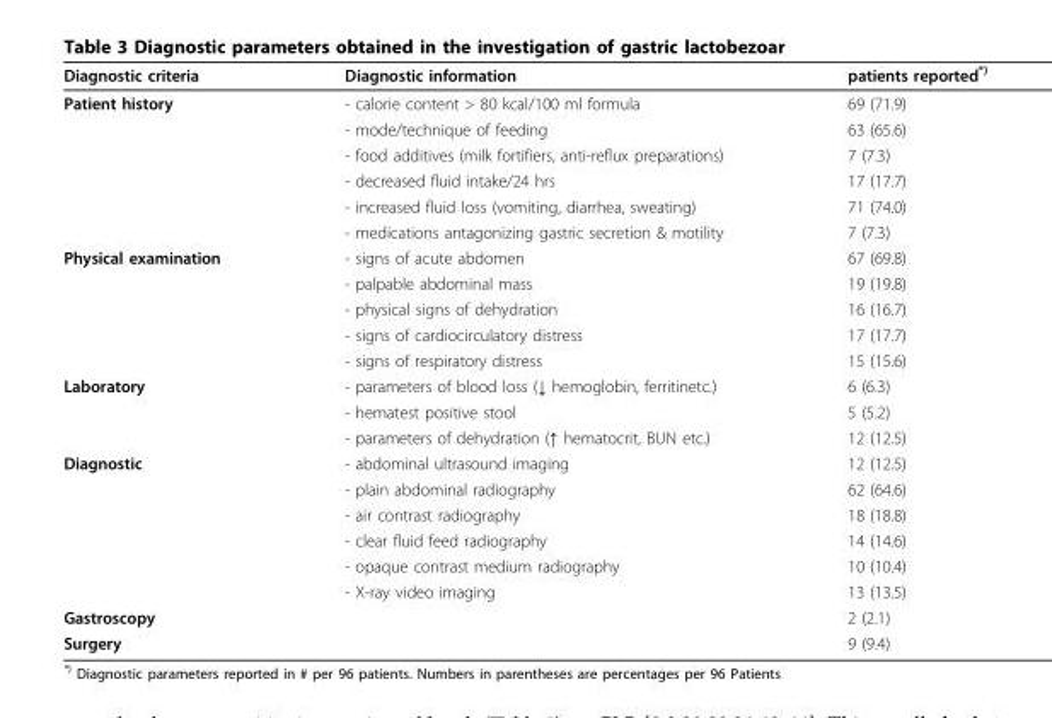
<table><thead><tr><td>Diagnostic criteria</td><td>Diagnostic information</td><td>patients reported<sup>*)</sup></td></tr></thead><tbody><tr><td rowspan="6">Patient history</td><td>- calorie content &gt; 80 kcal/100 ml formula</td><td>69 (71.9)</td></tr><tr><td>- mode/technique of feeding</td><td>63 (65.6)</td></tr><tr><td>- food additives (milk fortifiers, anti-reflux preparations)</td><td>7 (7.3)</td></tr><tr><td>- decreased fluid intake/24 hrs</td><td>17 (17.7)</td></tr><tr><td>- increased fluid loss (vomiting, diarrhea, sweating)</td><td>71 (74.0)</td></tr><tr><td>- medications antagonizing gastric secretion &amp; motility</td><td>7 (7.3)</td></tr><tr><td rowspan="5">Physical examination</td><td>- signs of acute abdomen</td><td>67 (69.8)</td></tr><tr><td>- palpable abdominal mass</td><td>19 (19.8)</td></tr><tr><td>- physical signs of dehydration</td><td>16 (16.7)</td></tr><tr><td>- signs of cardiocirculatory distress</td><td>17 (17.7)</td></tr><tr><td>- signs of respiratory distress</td><td>15 (15.6)</td></tr><tr><td rowspan="3">Laboratory</td><td>- parameters of blood loss (↓ hemoglobin, ferritinetc.)</td><td>6 (6.3)</td></tr><tr><td>- hematest positive stool</td><td>5 (5.2)</td></tr><tr><td>- parameters of dehydration (↑ hematocrit, BUN etc.)</td><td>12 (12.5)</td></tr><tr><td rowspan="6">Diagnostic</td><td>- abdominal ultrasound imaging</td><td>12 (12.5)</td></tr><tr><td>- plain abdominal radiography</td><td>62 (64.6)</td></tr><tr><td>- air contrast radiography</td><td>18 (18.8)</td></tr><tr><td>- clear fluid feed radiography</td><td>14 (14.6)</td></tr><tr><td>- opaque contrast medium radiography</td><td>10 (10.4)</td></tr><tr><td>- X-ray video imaging</td><td>13 (13.5)</td></tr><tr><td>Gastroscopy</td><td></td><td>2 (2.1)</td></tr><tr><td>Surgery</td><td></td><td>9 (9.4)</td></tr></tbody></table>